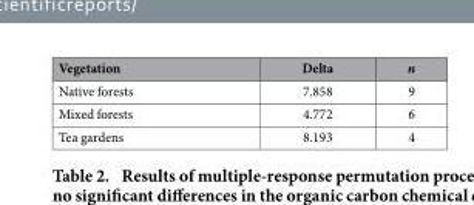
<table><thead><tr><td>Vegetation</td><td>Delta</td><td>n</td></tr></thead><tbody><tr><td>Native forests</td><td>7.858</td><td>9</td></tr><tr><td>Mixed forests</td><td>4.772</td><td>6</td></tr><tr><td>Tea gardens</td><td>8.193</td><td>4</td></tr></tbody></table>